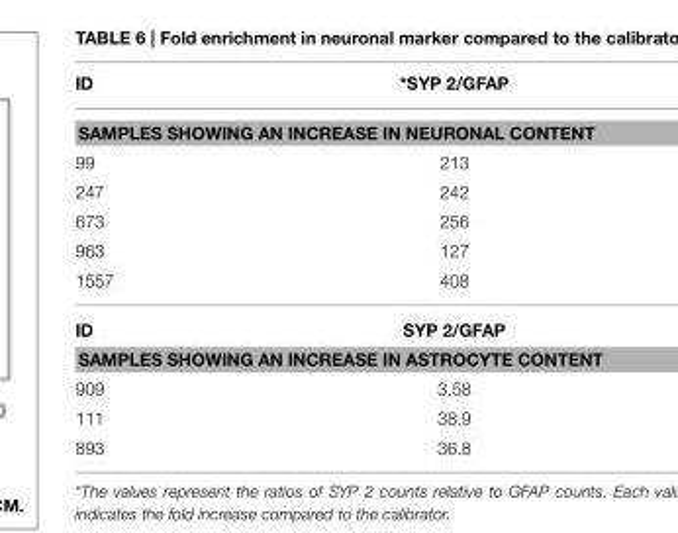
<table><thead><tr><td>ID</td><td>*SYP 2/GFAP</td></tr></thead><tbody><tr><td colspan="2">SAMPLES SHOWING AN INCREASE IN NEURONAL CONTENT</td></tr><tr><td>99</td><td>213</td></tr><tr><td>247</td><td>242</td></tr><tr><td>673</td><td>256</td></tr><tr><td>963</td><td>127</td></tr><tr><td>1557</td><td>408</td></tr><tr><td>ID</td><td>SYP 2/GFAP</td></tr><tr><td colspan="2">SAMPLES SHOWING AN INCREASE IN ASTROCYTE CONTENT</td></tr><tr><td>909</td><td>3.58</td></tr><tr><td>111</td><td>38.9</td></tr><tr><td>893</td><td>36.8</td></tr></tbody></table>